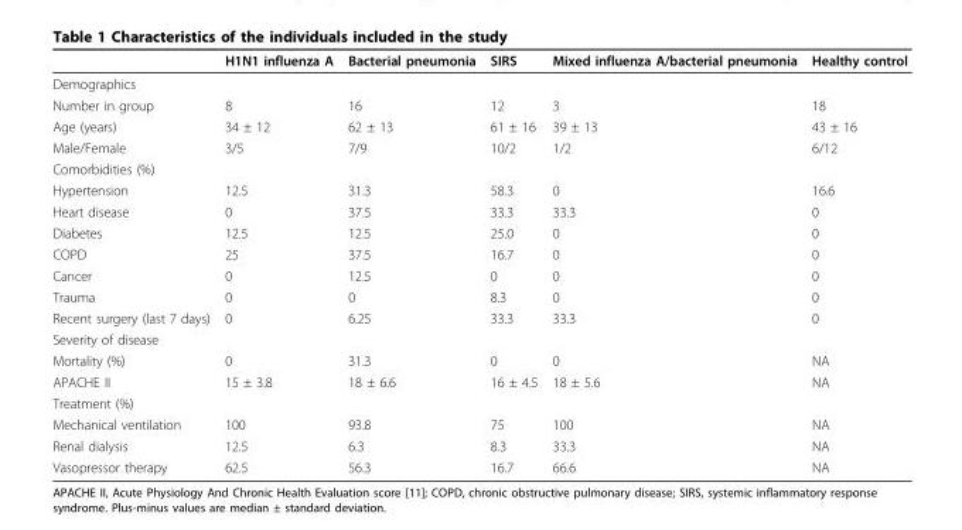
<table><thead><tr><td></td><td>H1N1 influenza A</td><td>Bacterial pneumonia</td><td>SIRS</td><td>Mixed influenza A/bacterial pneumonia</td><td>Healthy control</td></tr></thead><tbody><tr><td colspan="6">Demographics</td></tr><tr><td>Number in group</td><td>8</td><td>16</td><td>12</td><td>3</td><td>18</td></tr><tr><td>Age (years)</td><td>34 ± 12</td><td>62 ± 13</td><td>61 ± 16</td><td>39 ± 13</td><td>43 ± 16</td></tr><tr><td>Male/Female</td><td>3/5</td><td>7/9</td><td>10/2</td><td>1/2</td><td>6/12</td></tr><tr><td colspan="6">Comorbidities (%)</td></tr><tr><td>Hypertension</td><td>12.5</td><td>31.3</td><td>58.3</td><td>0</td><td>16.6</td></tr><tr><td>Heart disease</td><td>0</td><td>37.5</td><td>33.3</td><td>33.3</td><td>0</td></tr><tr><td>Diabetes</td><td>12.5</td><td>12.5</td><td>25.0</td><td>0</td><td>0</td></tr><tr><td>COPD</td><td>25</td><td>37.5</td><td>16.7</td><td>0</td><td>0</td></tr><tr><td>Cancer</td><td>0</td><td>12.5</td><td>0</td><td>0</td><td>0</td></tr><tr><td>Trauma</td><td>0</td><td>0</td><td>8.3</td><td>0</td><td>0</td></tr><tr><td>Recent surgery (last 7 days)</td><td>0</td><td>6.25</td><td>33.3</td><td>33.3</td><td>0</td></tr><tr><td colspan="6">Severity of disease</td></tr><tr><td>Mortality (%)</td><td>0</td><td>31.3</td><td>0</td><td>0</td><td>NA</td></tr><tr><td>APACHE II</td><td>15 ± 3.8</td><td>18 ± 6.6</td><td>16 ± 4.5</td><td>18 ± 5.6</td><td>NA</td></tr><tr><td colspan="6">Treatment (%)</td></tr><tr><td>Mechanical ventilation</td><td>100</td><td>93.8</td><td>75</td><td>100</td><td>NA</td></tr><tr><td>Renal dialysis</td><td>12.5</td><td>6.3</td><td>8.3</td><td>33.3</td><td>NA</td></tr><tr><td>Vasopressor therapy</td><td>62.5</td><td>56.3</td><td>16.7</td><td>66.6</td><td>NA</td></tr></tbody></table>